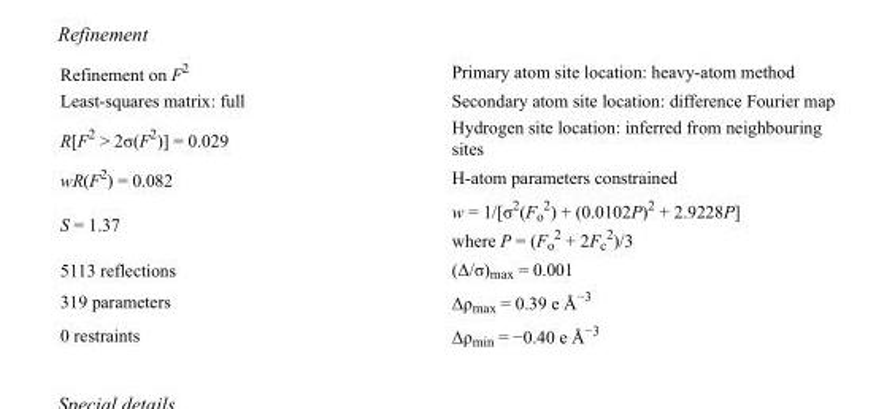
<table><tbody><tr><td>Refinement on F<sup>2</sup></td><td>Primary atom site location: heavy-atom method</td></tr><tr><td>Least-squares matrix: full</td><td>Secondary atom site location: difference Fourier map</td></tr><tr><td>R[F<sup>2</sup> &gt; 2σ(F<sup>2</sup>)] = 0.029</td><td>Hydrogen site location: inferred from neighbouring sites</td></tr><tr><td>wR(F<sup>2</sup>) = 0.082</td><td>H-atom parameters constrained</td></tr><tr><td>S = 1.37</td><td>w = 1/[σ<sup>2</sup>(F<sub>o</sub> <sup>2</sup>) + (0.0102P)<sup>2</sup> + 2.9228P] where P = (F<sub>o</sub> <sup>2</sup> + 2F<sub>c</sub> <sup>2</sup>)/3</td></tr><tr><td>5113 reflections</td><td>(Δ/σ)<sub>max</sub> = 0.001</td></tr><tr><td>319 parameters</td><td>Δρ<sub>max</sub> = 0.39 e Å<sup>−3</sup></td></tr><tr><td>0 restraints</td><td>Δρ<sub>min</sub> = −0.40 e Å<sup>−3</sup></td></tr></tbody></table>